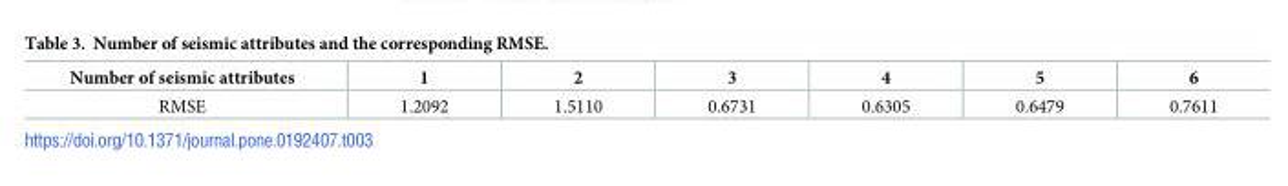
<table><thead><tr><td>Number of seismic attributes</td><td>1</td><td>2</td><td>3</td><td>4</td><td>5</td><td>6</td></tr></thead><tbody><tr><td>RMSE</td><td>1.2092</td><td>1.5110</td><td>0.6731</td><td>0.6305</td><td>0.6479</td><td>0.7611</td></tr></tbody></table>